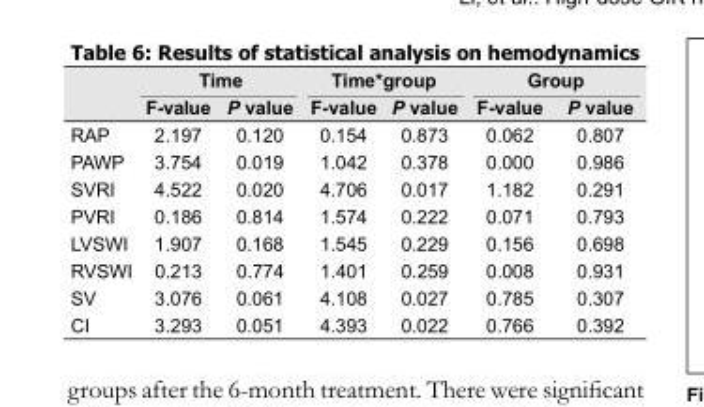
<table><thead><tr><td rowspan="2"></td><td colspan="2">Time</td><td colspan="2">Time*group</td><td colspan="2">Group</td></tr><tr><td>F-value</td><td>P value</td><td>F-value</td><td>P value</td><td>F-value</td><td>P value</td></tr></thead><tbody><tr><td>RAP</td><td>2.197</td><td>0.120</td><td>0.154</td><td>0.873</td><td>0.062</td><td>0.807</td></tr><tr><td>PAWP</td><td>3.754</td><td>0.019</td><td>1.042</td><td>0.378</td><td>0.000</td><td>0.986</td></tr><tr><td>SVRI</td><td>4.522</td><td>0.020</td><td>4.706</td><td>0.017</td><td>1.182</td><td>0.291</td></tr><tr><td>PVRI</td><td>0.186</td><td>0.814</td><td>1.574</td><td>0.222</td><td>0.071</td><td>0.793</td></tr><tr><td>LVSWI</td><td>1.907</td><td>0.168</td><td>1.545</td><td>0.229</td><td>0.156</td><td>0.698</td></tr><tr><td>RVSWI</td><td>0.213</td><td>0.774</td><td>1.401</td><td>0.259</td><td>0.008</td><td>0.931</td></tr><tr><td>SV</td><td>3.076</td><td>0.061</td><td>4.108</td><td>0.027</td><td>0.785</td><td>0.307</td></tr><tr><td>CI</td><td>3.293</td><td>0.051</td><td>4.393</td><td>0.022</td><td>0.766</td><td>0.392</td></tr></tbody></table>